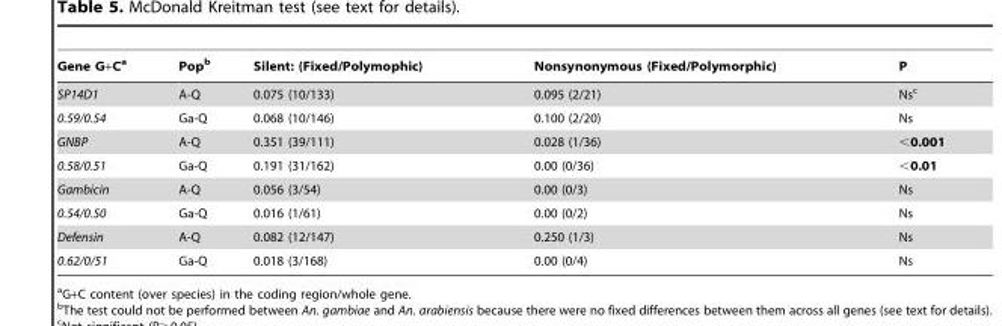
<table><thead><tr><td>Gene G+C<sup>a</sup></td><td>Pop<sup>b</sup></td><td>Silent: (Fixed/Polymophic)</td><td>Nonsynonymous (Fixed/Polymorphic)</td><td>P</td></tr></thead><tbody><tr><td>SP14D1</td><td>A-Q</td><td>0.075 (10/133)</td><td>0.095 (2/21)</td><td>Ns<sup>c</sup></td></tr><tr><td>0.59/0.54</td><td>Ga-Q</td><td>0.068 (10/146)</td><td>0.100 (2/20)</td><td>Ns</td></tr><tr><td>GNBP</td><td>A-Q</td><td>0.351 (39/111)</td><td>0.028 (1/36)</td><td>&lt;0.001</td></tr><tr><td>0.58/0.51</td><td>Ga-Q</td><td>0.191 (31/162)</td><td>0.00 (0/36)</td><td>&lt;0.01</td></tr><tr><td>Gambicin</td><td>A-Q</td><td>0.056 (3/54)</td><td>0.00 (0/3)</td><td>Ns</td></tr><tr><td>0.54/0.50</td><td>Ga-Q</td><td>0.016 (1/61)</td><td>0.00 (0/2)</td><td>Ns</td></tr><tr><td>Defensin</td><td>A-Q</td><td>0.082 (12/147)</td><td>0.250 (1/3)</td><td>Ns</td></tr><tr><td>0.62/0/51</td><td>Ga-Q</td><td>0.018 (3/168)</td><td>0.00 (0/4)</td><td>Ns</td></tr></tbody></table>